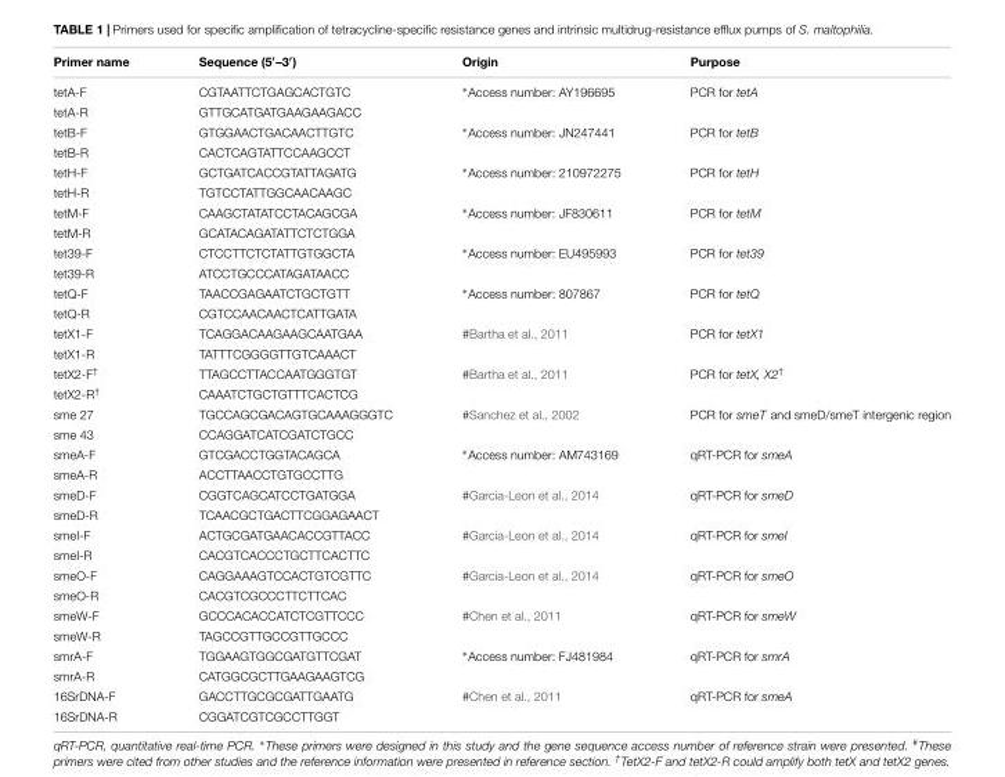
<table><thead><tr><td>Primer name</td><td>Sequence (5′–3′)</td><td>Origin</td><td>Purpose</td></tr></thead><tbody><tr><td>tetA-F</td><td>CGTAATTCTGAGCACTGTC</td><td>∗Access number: AY196695</td><td>PCR for tetA</td></tr><tr><td>tetA-R</td><td>GTTGCATGATGAAGAAGACC</td><td></td><td></td></tr><tr><td>tetB-F</td><td>GTGGAACTGACAACTTGTC</td><td>∗Access number: JN247441</td><td>PCR for tetB</td></tr><tr><td>tetB-R</td><td>CACTCAGTATTCCAAGCCT</td><td></td><td></td></tr><tr><td>tetH-F</td><td>GCTGATCACCGTATTAGATG</td><td>∗Access number: 210972275</td><td>PCR for tetH</td></tr><tr><td>tetH-R</td><td>TGTCCTATTGGCAACAAGC</td><td></td><td></td></tr><tr><td>tetM-F</td><td>CAAGCTATATCCTACAGCGA</td><td>∗Access number: JF830611</td><td>PCR for tetM</td></tr><tr><td>tetM-R</td><td>GCATACAGATATTCTCTGGA</td><td></td><td></td></tr><tr><td>tet39-F</td><td>CTCCTTCTCTATTGTGGCTA</td><td>∗Access number: EU495993</td><td>PCR for tet39</td></tr><tr><td>tet39-R</td><td>ATCCTGCCCATAGATAACC</td><td></td><td></td></tr><tr><td>tetQ-F</td><td>TAACCGAGAATCTGCTGTT</td><td>∗Access number: 807867</td><td>PCR for tetQ</td></tr><tr><td>tetQ-R</td><td>CGTCCAACAACTCATTGATA</td><td></td><td></td></tr><tr><td>tetX1-F</td><td>TCAGGACAAGAAGCAATGAA</td><td>#Bartha et al., 2011</td><td>PCR for tetX1</td></tr><tr><td>tetX1-R</td><td>TATTTCGGGGTTGTCAAACT</td><td></td><td></td></tr><tr><td>tetX2-F<sup>†</sup></td><td>TTAGCCTTACCAATGGGTGT</td><td>#Bartha et al., 2011</td><td>PCR for tetX, X2<sup>†</sup></td></tr><tr><td>tetX2-R<sup>†</sup></td><td>CAAATCTGCTGTTTCACTCG</td><td></td><td></td></tr><tr><td>sme 27</td><td>TGCCAGCGACAGTGCAAAGGGTC</td><td>#Sanchez et al., 2002</td><td>PCR for smeT and smeD/smeT intergenic region</td></tr><tr><td>sme 43</td><td>CCAGGATCATCGATCTGCC</td><td></td><td></td></tr><tr><td>smeA-F</td><td>GTCGACCTGGTACAGCA</td><td>∗Access number: AM743169</td><td>qRT-PCR for smeA</td></tr><tr><td>smeA-R</td><td>ACCTTAACCTGTGCCTTG</td><td></td><td></td></tr><tr><td>smeD-F</td><td>CGGTCAGCATCCTGATGGA</td><td>#Garcia-Leon et al., 2014</td><td>qRT-PCR for smeD</td></tr><tr><td>smeD-R</td><td>TCAACGCTGACTTCGGAGAACT</td><td></td><td></td></tr><tr><td>smeI-F</td><td>ACTGCGATGAACACCGTTACC</td><td>#Garcia-Leon et al., 2014</td><td>qRT-PCR for smeI</td></tr><tr><td>smeI-R</td><td>CACGTCACCCTGCTTCACTTC</td><td></td><td></td></tr><tr><td>smeO-F</td><td>CAGGAAAGTCCACTGTCGTTC</td><td>#Garcia-Leon et al., 2014</td><td>qRT-PCR for smeO</td></tr><tr><td>smeO-R</td><td>CACGTCGCCCTTCTTCAC</td><td></td><td></td></tr><tr><td>smeW-F</td><td>GCCCACACCATCTCGTTCCC</td><td>#Chen et al., 2011</td><td>qRT-PCR for smeW</td></tr><tr><td>smeW-R</td><td>TAGCCGTTGCCGTTGCCC</td><td></td><td></td></tr><tr><td>smrA-F</td><td>TGGAAGTGGCGATGTTCGAT</td><td>∗Access number: FJ481984</td><td>qRT-PCR for smrA</td></tr><tr><td>smrA-R</td><td>CATGGCGCTTGAAGAAGTCG</td><td></td><td></td></tr><tr><td>16SrDNA-F</td><td>GACCTTGCGCGATTGAATG</td><td>#Chen et al., 2011</td><td>qRT-PCR for smeA</td></tr><tr><td>16SrDNA-R</td><td>CGGATCGTCGCCTTGGT</td><td></td><td></td></tr></tbody></table>